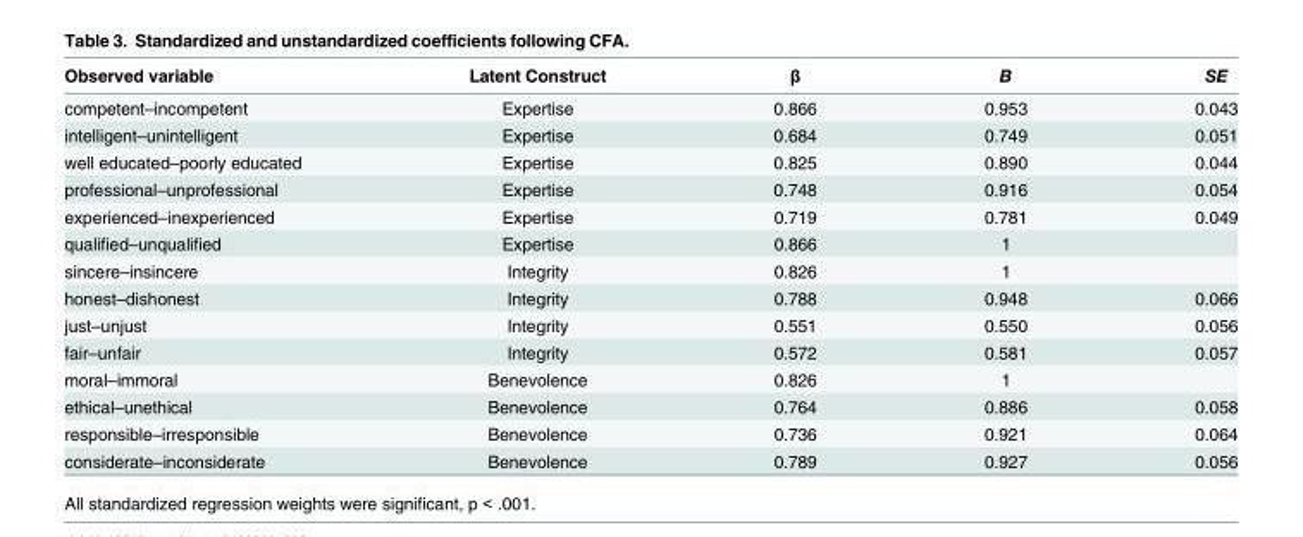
<table><thead><tr><td>Observed variable</td><td>Latent Construct</td><td>β</td><td>B</td><td>SE</td></tr></thead><tbody><tr><td>competent–incompetent</td><td>Expertise</td><td>0.866</td><td>0.953</td><td>0.043</td></tr><tr><td>intelligent–unintelligent</td><td>Expertise</td><td>0.684</td><td>0.749</td><td>0.051</td></tr><tr><td>well educated–poorly educated</td><td>Expertise</td><td>0.825</td><td>0.890</td><td>0.044</td></tr><tr><td>professional–unprofessional</td><td>Expertise</td><td>0.748</td><td>0.916</td><td>0.054</td></tr><tr><td>experienced–inexperienced</td><td>Expertise</td><td>0.719</td><td>0.781</td><td>0.049</td></tr><tr><td>qualified–unqualified</td><td>Expertise</td><td>0.866</td><td>1</td><td></td></tr><tr><td>sincere–insincere</td><td>Integrity</td><td>0.826</td><td>1</td><td></td></tr><tr><td>honest–dishonest</td><td>Integrity</td><td>0.788</td><td>0.948</td><td>0.066</td></tr><tr><td>just–unjust</td><td>Integrity</td><td>0.551</td><td>0.550</td><td>0.056</td></tr><tr><td>fair–unfair</td><td>Integrity</td><td>0.572</td><td>0.581</td><td>0.057</td></tr><tr><td>moral–immoral</td><td>Benevolence</td><td>0.826</td><td>1</td><td></td></tr><tr><td>ethical–unethical</td><td>Benevolence</td><td>0.764</td><td>0.886</td><td>0.058</td></tr><tr><td>responsible–irresponsible</td><td>Benevolence</td><td>0.736</td><td>0.921</td><td>0.064</td></tr><tr><td>considerate–inconsiderate</td><td>Benevolence</td><td>0.789</td><td>0.927</td><td>0.056</td></tr></tbody></table>